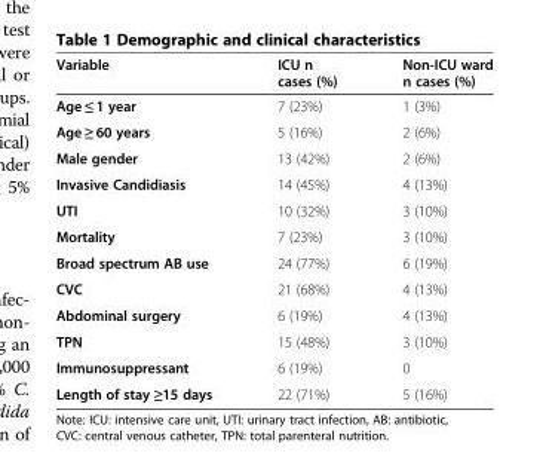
<table><thead><tr><td>Variable</td><td>ICU n cases (%)</td><td>Non-ICU ward n cases (%)</td></tr></thead><tbody><tr><td>Age ≤ 1 year</td><td>7 (23%)</td><td>1 (3%)</td></tr><tr><td>Age ≥ 60 years</td><td>5 (16%)</td><td>2 (6%)</td></tr><tr><td>Male gender</td><td>13 (42%)</td><td>2 (6%)</td></tr><tr><td>Invasive Candidiasis</td><td>14 (45%)</td><td>4 (13%)</td></tr><tr><td>UTI</td><td>10 (32%)</td><td>3 (10%)</td></tr><tr><td>Mortality</td><td>7 (23%)</td><td>3 (10%)</td></tr><tr><td>Broad spectrum AB use</td><td>24 (77%)</td><td>6 (19%)</td></tr><tr><td>CVC</td><td>21 (68%)</td><td>4 (13%)</td></tr><tr><td>Abdominal surgery</td><td>6 (19%)</td><td>4 (13%)</td></tr><tr><td>TPN</td><td>15 (48%)</td><td>3 (10%)</td></tr><tr><td>Immunosuppressant</td><td>6 (19%)</td><td>0</td></tr><tr><td>Length of stay ≥15 days</td><td>22 (71%)</td><td>5 (16%)</td></tr></tbody></table>